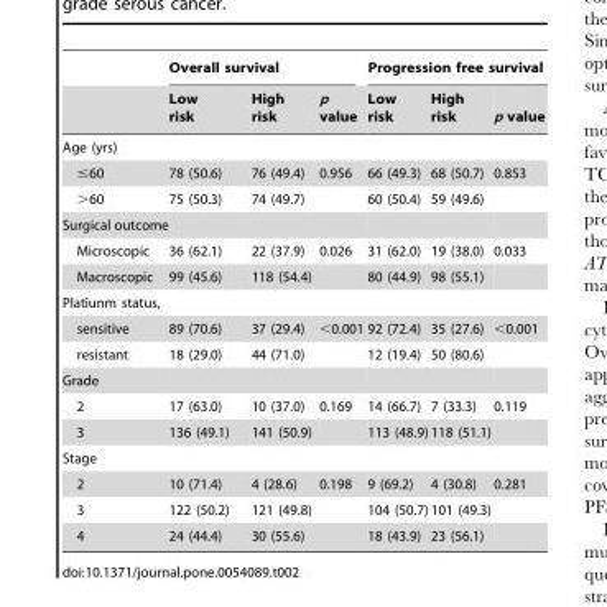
<table><thead><tr><td rowspan="2"></td><td colspan="3">Overall survival</td><td colspan="3">Progression free survival</td></tr><tr><td>Low risk</td><td>High risk</td><td>p value</td><td>Low risk</td><td>High risk</td><td>p value</td></tr></thead><tbody><tr><td colspan="7">Age (yrs)</td></tr><tr><td>≤60</td><td>78 (50.6)</td><td>76 (49.4)</td><td>0.956</td><td>66 (49.3)</td><td>68 (50.7)</td><td>0.853</td></tr><tr><td>&gt;60</td><td>75 (50.3)</td><td>74 (49.7)</td><td></td><td>60 (50.4)</td><td>59 (49.6)</td><td></td></tr><tr><td colspan="7">Surgical outcome</td></tr><tr><td>Microscopic</td><td>36 (62.1)</td><td>22 (37.9)</td><td>0.026</td><td>31 (62.0)</td><td>19 (38.0)</td><td>0.033</td></tr><tr><td>Macroscopic</td><td>99 (45.6)</td><td>118 (54.4)</td><td></td><td>80 (44.9)</td><td>98 (55.1)</td><td></td></tr><tr><td colspan="7">Platiunm status,</td></tr><tr><td>sensitive</td><td>89 (70.6)</td><td>37 (29.4)</td><td>&lt;0.001</td><td>92 (72.4)</td><td>35 (27.6)</td><td>&lt;0.001</td></tr><tr><td>resistant</td><td>18 (29.0)</td><td>44 (71.0)</td><td></td><td>12 (19.4)</td><td>50 (80.6)</td><td></td></tr><tr><td colspan="7">Grade</td></tr><tr><td>2</td><td>17 (63.0)</td><td>10 (37.0)</td><td>0.169</td><td>14 (66.7)</td><td>7 (33.3)</td><td>0.119</td></tr><tr><td>3</td><td>136 (49.1)</td><td>141 (50.9)</td><td></td><td>113 (48.9)</td><td>118 (51.1)</td><td></td></tr><tr><td colspan="7">Stage</td></tr><tr><td>2</td><td>10 (71.4)</td><td>4 (28.6)</td><td>0.198</td><td>9 (69.2)</td><td>4 (30.8)</td><td>0.281</td></tr><tr><td>3</td><td>122 (50.2)</td><td>121 (49.8)</td><td></td><td>104 (50.7)</td><td>101 (49.3)</td><td></td></tr><tr><td>4</td><td>24 (44.4)</td><td>30 (55.6)</td><td></td><td>18 (43.9)</td><td>23 (56.1)</td><td></td></tr></tbody></table>